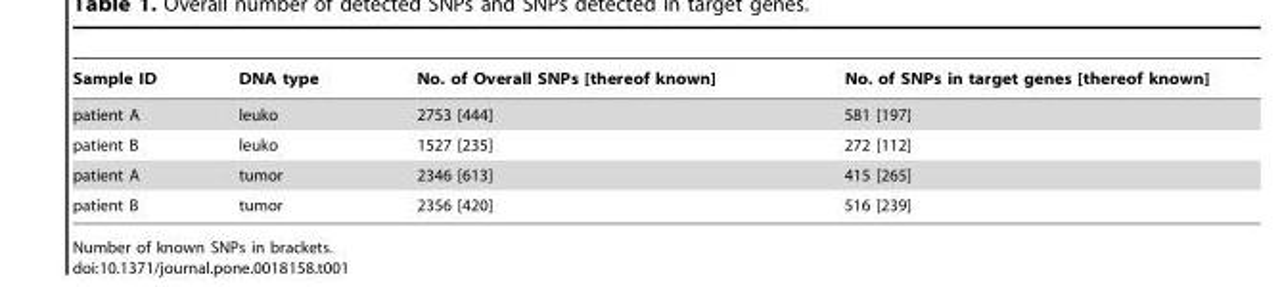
<table><thead><tr><td>Sample ID</td><td>DNA type</td><td>No. of Overall SNPs [thereof known]</td><td>No. of SNPs in target genes [thereof known]</td></tr></thead><tbody><tr><td>patient A</td><td>leuko</td><td>2753 [444]</td><td>581 [197]</td></tr><tr><td>patient B</td><td>leuko</td><td>1527 [235]</td><td>272 [112]</td></tr><tr><td>patient A</td><td>tumor</td><td>2346 [613]</td><td>415 [265]</td></tr><tr><td>patient B</td><td>tumor</td><td>2356 [420]</td><td>516 [239]</td></tr></tbody></table>